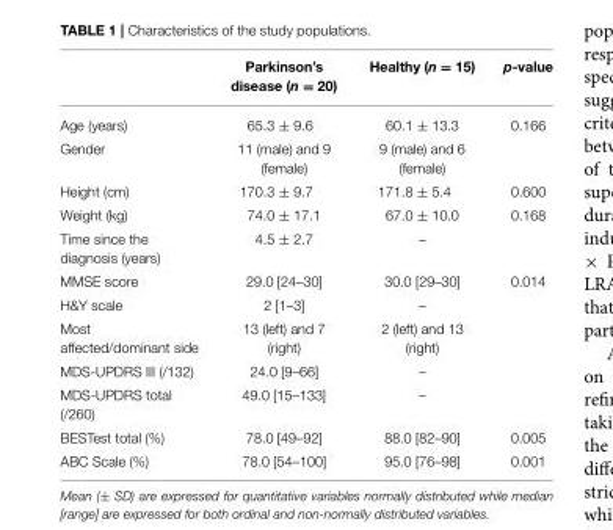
<table><thead><tr><td></td><td>Parkinson’s disease (n = 20)</td><td>Healthy (n = 15)</td><td>p-value</td></tr></thead><tbody><tr><td>Age (years)</td><td>65.3 ± 9.6</td><td>60.1 ± 13.3</td><td>0.166</td></tr><tr><td>Gender</td><td>11 (male) and 9 (female)</td><td>9 (male) and 6 (female)</td><td></td></tr><tr><td>Height (cm)</td><td>170.3 ± 9.7</td><td>171.8 ± 5.4</td><td>0.600</td></tr><tr><td>Weight (kg)</td><td>74.0 ± 17.1</td><td>67.0 ± 10.0</td><td>0.168</td></tr><tr><td>Time since the diagnosis (years)</td><td>4.5 ± 2.7</td><td>–</td><td></td></tr><tr><td>MMSE score</td><td>29.0 [24–30]</td><td>30.0 [29–30]</td><td>0.014</td></tr><tr><td>H&amp;Y scale</td><td>2 [1–3]</td><td>–</td><td></td></tr><tr><td>Most affected/dominant side</td><td>13 (left) and 7 (right)</td><td>2 (left) and 13 (right)</td><td></td></tr><tr><td>MDS-UPDRS III (/132)</td><td>24.0 [9–66]</td><td>–</td><td></td></tr><tr><td>MDS-UPDRS total (/260)</td><td>49.0 [15–133]</td><td>–</td><td></td></tr><tr><td>BESTest total (%)</td><td>78.0 [49–92]</td><td>88.0 [82–90]</td><td>0.005</td></tr><tr><td>ABC Scale (%)</td><td>78.0 [54–100]</td><td>95.0 [76–98]</td><td>0.001</td></tr></tbody></table>